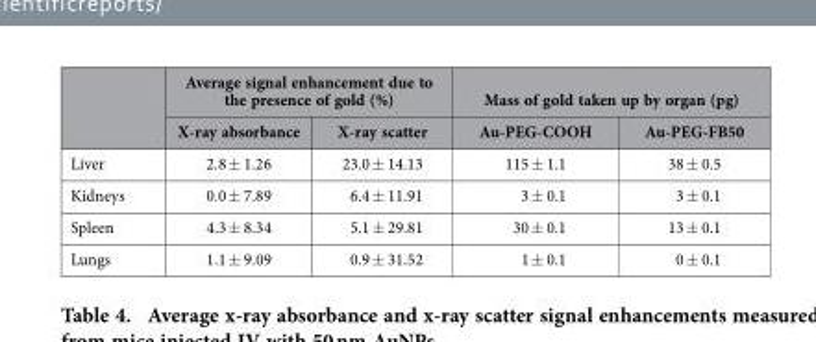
<table><thead><tr><td rowspan="2"></td><td colspan="2">Average signal enhancement due to the presence of gold (%)</td><td colspan="2">Mass of gold taken up by organ (pg)</td></tr><tr><td>X-ray absorbance</td><td>X-ray scatter</td><td>Au-PEG-COOH</td><td>Au-PEG-FB50</td></tr></thead><tbody><tr><td>Liver</td><td>2.8 ± 1.26</td><td>23.0 ± 14.13</td><td>115 ± 1.1</td><td>38 ± 0.5</td></tr><tr><td>Kidneys</td><td>0.0 ± 7.89</td><td>6.4 ± 11.91</td><td>3 ± 0.1</td><td>3 ± 0.1</td></tr><tr><td>Spleen</td><td>4.3 ± 8.34</td><td>5.1 ± 29.81</td><td>30 ± 0.1</td><td>13 ± 0.1</td></tr><tr><td>Lungs</td><td>1.1 ± 9.09</td><td>0.9 ± 31.52</td><td>1 ± 0.1</td><td>0 ± 0.1</td></tr></tbody></table>